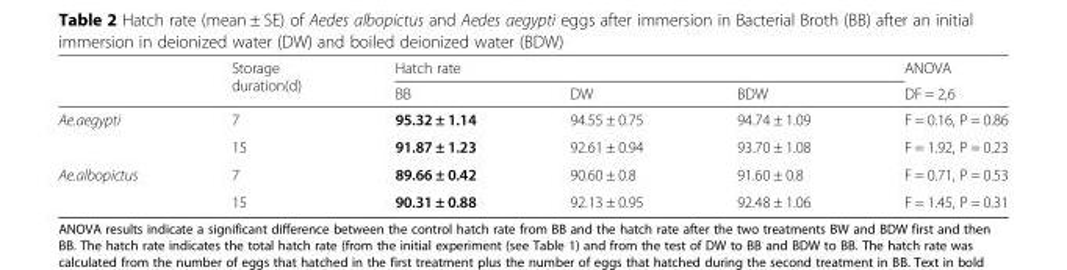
<table><thead><tr><td rowspan="2"></td><td rowspan="2">Storage duration(d)</td><td colspan="3">Hatch rate</td><td rowspan="2">ANOVA DF = 2,6</td></tr><tr><td>BB</td><td>DW</td><td>BDW</td></tr></thead><tbody><tr><td rowspan="2">Ae.aegypti</td><td>7</td><td>95.32 ± 1.14</td><td>94.55 ± 0.75</td><td>94.74 ± 1.09</td><td>F = 0.16, P = 0.86</td></tr><tr><td>15</td><td>91.87 ± 1.23</td><td>92.61 ± 0.94</td><td>93.70 ± 1.08</td><td>F = 1.92, P = 0.23</td></tr><tr><td rowspan="2">Ae.albopictus</td><td>7</td><td>89.66 ± 0.42</td><td>90.60 ± 0.8</td><td>91.60 ± 0.8</td><td>F = 0.71, P = 0.53</td></tr><tr><td>15</td><td>90.31 ± 0.88</td><td>92.13 ± 0.95</td><td>92.48 ± 1.06</td><td>F = 1.45, P = 0.31</td></tr></tbody></table>